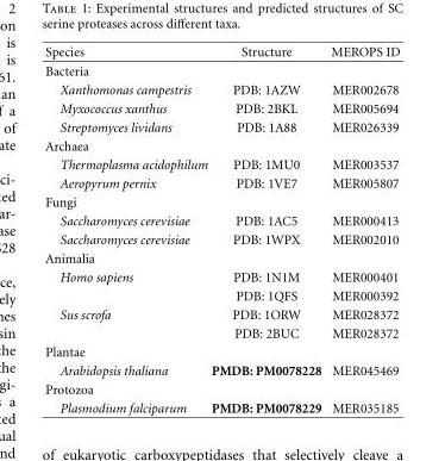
<table><thead><tr><td>Species</td><td>Structure</td><td>MEROPS ID</td></tr></thead><tbody><tr><td colspan="3">Bacteria</td></tr><tr><td>Xanthomonas campestris</td><td>PDB: 1AZW</td><td>MER002678</td></tr><tr><td>Myxococcus xanthus</td><td>PDB: 2BKL</td><td>MER005694</td></tr><tr><td>Streptomyces lividans</td><td>PDB: 1A88</td><td>MER026339</td></tr><tr><td colspan="3">Archaea</td></tr><tr><td>Thermoplasma acidophilum</td><td>PDB: 1MU0</td><td>MER003537</td></tr><tr><td>Aeropyrum pernix</td><td>PDB: 1VE7</td><td>MER005807</td></tr><tr><td colspan="3">Fungi</td></tr><tr><td>Saccharomyces cerevisiae</td><td>PDB: 1AC5</td><td>MER000413</td></tr><tr><td>Saccharomyces cerevisiae</td><td>PDB: 1WPX</td><td>MER002010</td></tr><tr><td colspan="3">Animalia</td></tr><tr><td rowspan="2">Homo sapiens</td><td>PDB: 1N1M</td><td>MER000401</td></tr><tr><td>PDB: 1QFS</td><td>MER000392</td></tr><tr><td rowspan="2">Sus scrofa</td><td>PDB: 1ORW</td><td>MER028372</td></tr><tr><td>PDB: 2BUC</td><td>MER028372</td></tr><tr><td colspan="3">Plantae</td></tr><tr><td>Arabidopsis thaliana</td><td>PMDB: PM0078228</td><td>MER045469</td></tr><tr><td colspan="3">Protozoa</td></tr><tr><td>Plasmodium falciparum</td><td>PMDB: PM0078229</td><td>MER035185</td></tr></tbody></table>